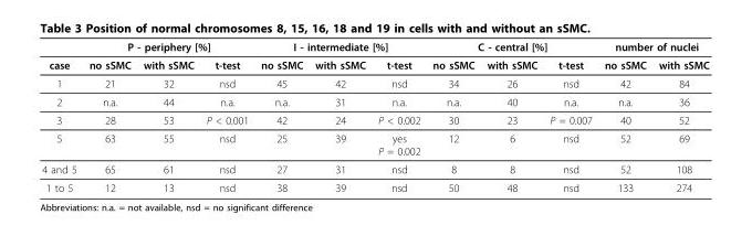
<table><thead><tr><td rowspan="2">case</td><td colspan="3">P - periphery [%]</td><td colspan="3">I - intermediate [%]</td><td colspan="3">C - central [%]</td><td colspan="2">number of nuclei</td></tr><tr><td>no sSMC</td><td>with sSMC</td><td>t-test</td><td>no sSMC</td><td>with sSMC</td><td>t-test</td><td>no sSMC</td><td>with sSMC</td><td>t-test</td><td>no sSMC</td><td>with sSMC</td></tr></thead><tbody><tr><td>1</td><td>21</td><td>32</td><td>nsd</td><td>45</td><td>42</td><td>nsd</td><td>34</td><td>26</td><td>nsd</td><td>42</td><td>84</td></tr><tr><td>2</td><td>n.a.</td><td>44</td><td>n.a.</td><td>n.a.</td><td>31</td><td>n.a.</td><td>n.a.</td><td>40</td><td>n.a.</td><td>n.a.</td><td>36</td></tr><tr><td>3</td><td>28</td><td>53</td><td>P &lt; 0.001</td><td>42</td><td>24</td><td>P &lt; 0.002</td><td>30</td><td>23</td><td>P = 0.007</td><td>40</td><td>52</td></tr><tr><td>5</td><td>63</td><td>55</td><td>nsd</td><td>25</td><td>39</td><td>yes P = 0.002</td><td>12</td><td>6</td><td>nsd</td><td>52</td><td>69</td></tr><tr><td>4 and 5</td><td>65</td><td>61</td><td>nsd</td><td>27</td><td>31</td><td>nsd</td><td>8</td><td>8</td><td>nsd</td><td>52</td><td>108</td></tr><tr><td>1 to 5</td><td>12</td><td>13</td><td>nsd</td><td>38</td><td>39</td><td>nsd</td><td>50</td><td>48</td><td>nsd</td><td>133</td><td>274</td></tr></tbody></table>